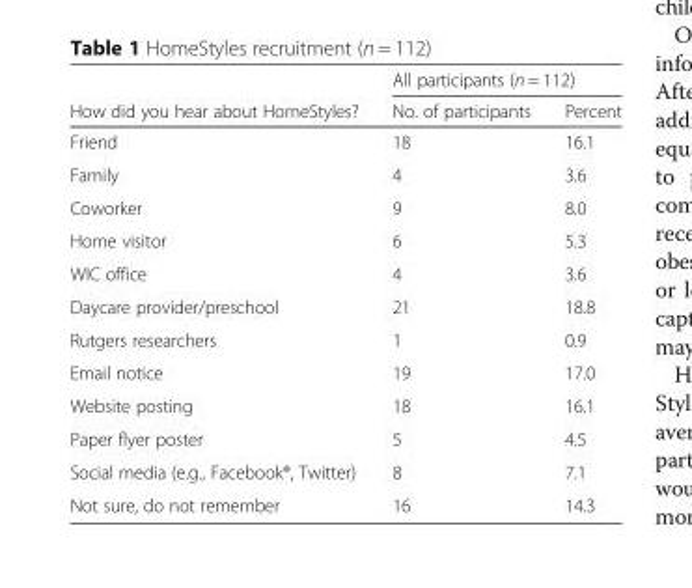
<table><thead><tr><td rowspan="2">How did you hear about HomeStyles?</td><td colspan="2">All participants (n = 112)</td></tr><tr><td>No. of participants</td><td>Percent</td></tr></thead><tbody><tr><td>Friend</td><td>18</td><td>16.1</td></tr><tr><td>Family</td><td>4</td><td>3.6</td></tr><tr><td>Coworker</td><td>9</td><td>8.0</td></tr><tr><td>Home visitor</td><td>6</td><td>5.3</td></tr><tr><td>WIC office</td><td>4</td><td>3.6</td></tr><tr><td>Daycare provider/preschool</td><td>21</td><td>18.8</td></tr><tr><td>Rutgers researchers</td><td>1</td><td>0.9</td></tr><tr><td>Email notice</td><td>19</td><td>17.0</td></tr><tr><td>Website posting</td><td>18</td><td>16.1</td></tr><tr><td>Paper flyer poster</td><td>5</td><td>4.5</td></tr><tr><td>Social media (e.g., Facebook®, Twitter)</td><td>8</td><td>7.1</td></tr><tr><td>Not sure, do not remember</td><td>16</td><td>14.3</td></tr></tbody></table>